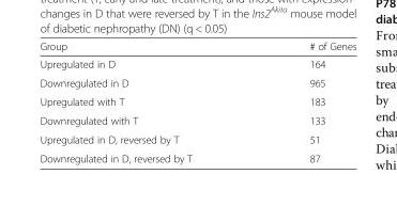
<table><thead><tr><td>Group</td><td># of Genes</td></tr></thead><tbody><tr><td>Upregulated in D</td><td>164</td></tr><tr><td>Downregulated in D</td><td>965</td></tr><tr><td>Upregulated with T</td><td>183</td></tr><tr><td>Downregulated with T</td><td>133</td></tr><tr><td>Upregulated in D, reversed by T</td><td>51</td></tr><tr><td>Downregulated in D, reversed by T</td><td>87</td></tr></tbody></table>